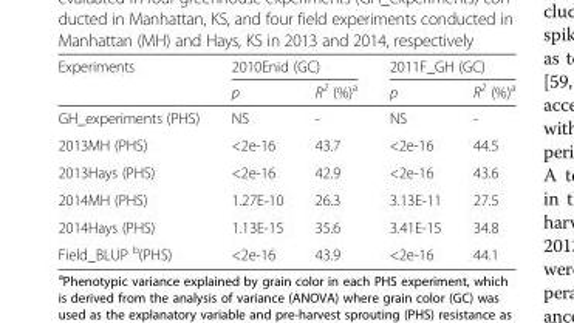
<table><thead><tr><td rowspan="2">Experiments</td><td colspan="2">2010Enid (GC)</td><td colspan="2">2011F_GH (GC)</td></tr><tr><td>p</td><td>R<sup>2</sup> (%)<sup>a</sup></td><td>p</td><td>R<sup>2</sup> (%)<sup>a</sup></td></tr></thead><tbody><tr><td>GH_experiments (PHS)</td><td>NS</td><td>-</td><td>NS</td><td>-</td></tr><tr><td>2013MH (PHS)</td><td>&lt;2e-16</td><td>43.7</td><td>&lt;2e-16</td><td>44.5</td></tr><tr><td>2013Hays (PHS)</td><td>&lt;2e-16</td><td>42.9</td><td>&lt;2e-16</td><td>43.6</td></tr><tr><td>2014MH (PHS)</td><td>1.27E-10</td><td>26.3</td><td>3.13E-11</td><td>27.5</td></tr><tr><td>2014Hays (PHS)</td><td>1.13E-15</td><td>35.6</td><td>3.41E-15</td><td>34.8</td></tr><tr><td>Field_BLUP <sup>b</sup>(PHS)</td><td>&lt;2e-16</td><td>43.9</td><td>&lt;2e-16</td><td>44.1</td></tr></tbody></table>